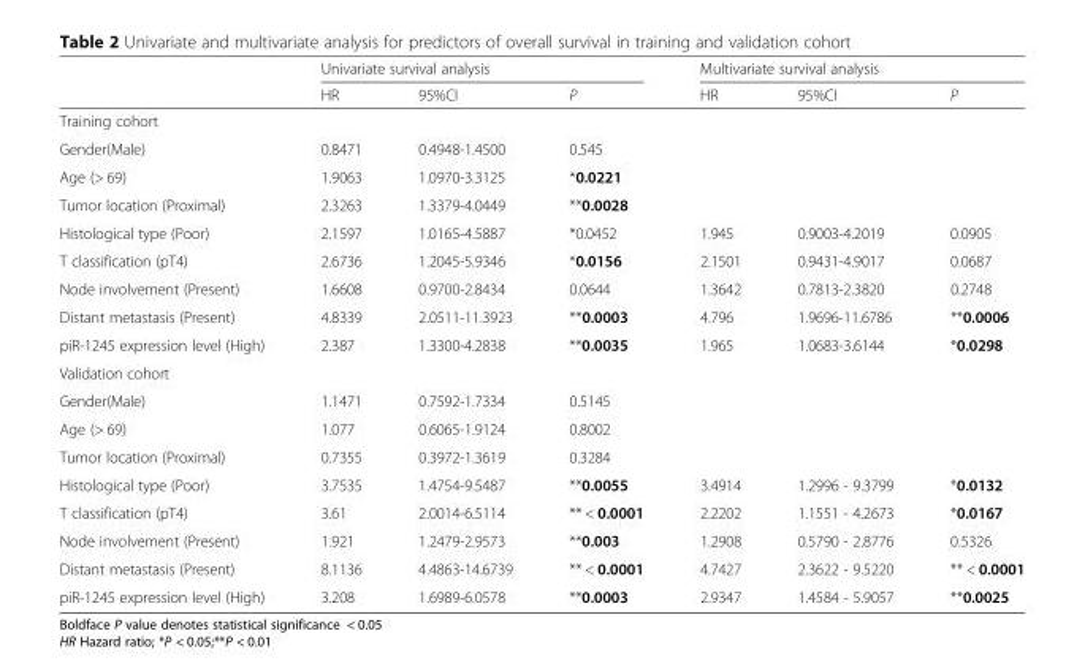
<table><thead><tr><td rowspan="2"></td><td colspan="3">Univariate survival analysis</td><td colspan="3">Multivariate survival analysis</td></tr><tr><td>HR</td><td>95%CI</td><td>P</td><td>HR</td><td>95%CI</td><td>P</td></tr></thead><tbody><tr><td colspan="7">Training cohort</td></tr><tr><td>Gender(Male)</td><td>0.8471</td><td>0.4948-1.4500</td><td>0.545</td><td></td><td></td><td></td></tr><tr><td>Age (&gt; 69)</td><td>1.9063</td><td>1.0970-3.3125</td><td>*0.0221</td><td></td><td></td><td></td></tr><tr><td>Tumor location (Proximal)</td><td>2.3263</td><td>1.3379-4.0449</td><td>**0.0028</td><td></td><td></td><td></td></tr><tr><td>Histological type (Poor)</td><td>2.1597</td><td>1.0165-4.5887</td><td>*0.0452</td><td>1.945</td><td>0.9003-4.2019</td><td>0.0905</td></tr><tr><td>T classification (pT4)</td><td>2.6736</td><td>1.2045-5.9346</td><td>*0.0156</td><td>2.1501</td><td>0.9431-4.9017</td><td>0.0687</td></tr><tr><td>Node involvement (Present)</td><td>1.6608</td><td>0.9700-2.8434</td><td>0.0644</td><td>1.3642</td><td>0.7813-2.3820</td><td>0.2748</td></tr><tr><td>Distant metastasis (Present)</td><td>4.8339</td><td>2.0511-11.3923</td><td>**0.0003</td><td>4.796</td><td>1.9696-11.6786</td><td>**0.0006</td></tr><tr><td>piR-1245 expression level (High)</td><td>2.387</td><td>1.3300-4.2838</td><td>**0.0035</td><td>1.965</td><td>1.0683-3.6144</td><td>*0.0298</td></tr><tr><td colspan="7">Validation cohort</td></tr><tr><td>Gender(Male)</td><td>1.1471</td><td>0.7592-1.7334</td><td>0.5145</td><td></td><td></td><td></td></tr><tr><td>Age (&gt; 69)</td><td>1.077</td><td>0.6065-1.9124</td><td>0.8002</td><td></td><td></td><td></td></tr><tr><td>Tumor location (Proximal)</td><td>0.7355</td><td>0.3972-1.3619</td><td>0.3284</td><td></td><td></td><td></td></tr><tr><td>Histological type (Poor)</td><td>3.7535</td><td>1.4754-9.5487</td><td>**0.0055</td><td>3.4914</td><td>1.2996 - 9.3799</td><td>*0.0132</td></tr><tr><td>T classification (pT4)</td><td>3.61</td><td>2.0014-6.5114</td><td>** &lt; 0.0001</td><td>2.2202</td><td>1.1551 - 4.2673</td><td>*0.0167</td></tr><tr><td>Node involvement (Present)</td><td>1.921</td><td>1.2479-2.9573</td><td>**0.003</td><td>1.2908</td><td>0.5790 - 2.8776</td><td>0.5326</td></tr><tr><td>Distant metastasis (Present)</td><td>8.1136</td><td>4.4863-14.6739</td><td>** &lt; 0.0001</td><td>4.7427</td><td>2.3622 - 9.5220</td><td>** &lt; 0.0001</td></tr><tr><td>piR-1245 expression level (High)</td><td>3.208</td><td>1.6989-6.0578</td><td>**0.0003</td><td>2.9347</td><td>1.4584 - 5.9057</td><td>**0.0025</td></tr></tbody></table>